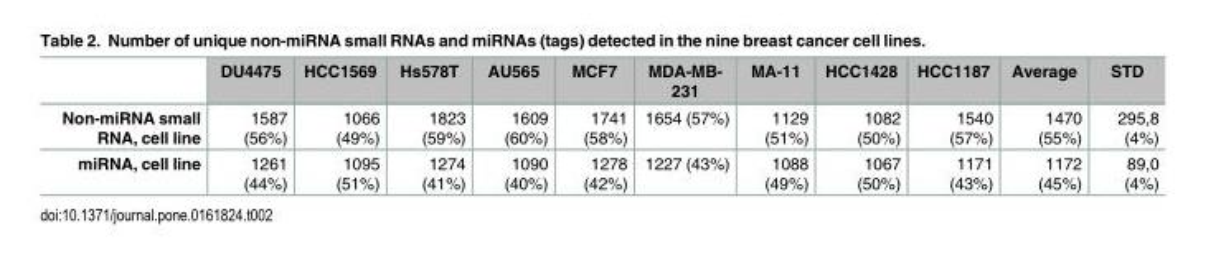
<table><thead><tr><td></td><td>DU4475</td><td>HCC1569</td><td>Hs578T</td><td>AU565</td><td>MCF7</td><td>MDA-MB- 231</td><td>MA-11</td><td>HCC1428</td><td>HCC1187</td><td>Average</td><td>STD</td></tr></thead><tbody><tr><td>Non-miRNA small RNA, cell line</td><td>1587 (56%)</td><td>1066 (49%)</td><td>1823 (59%)</td><td>1609 (60%)</td><td>1741 (58%)</td><td>1654 (57%)</td><td>1129 (51%)</td><td>1082 (50%)</td><td>1540 (57%)</td><td>1470 (55%)</td><td>295,8 (4%)</td></tr><tr><td>miRNA, cell line</td><td>1261 (44%)</td><td>1095 (51%)</td><td>1274 (41%)</td><td>1090 (40%)</td><td>1278 (42%)</td><td>1227 (43%)</td><td>1088 (49%)</td><td>1067 (50%)</td><td>1171 (43%)</td><td>1172 (45%)</td><td>89,0 (4%)</td></tr></tbody></table>